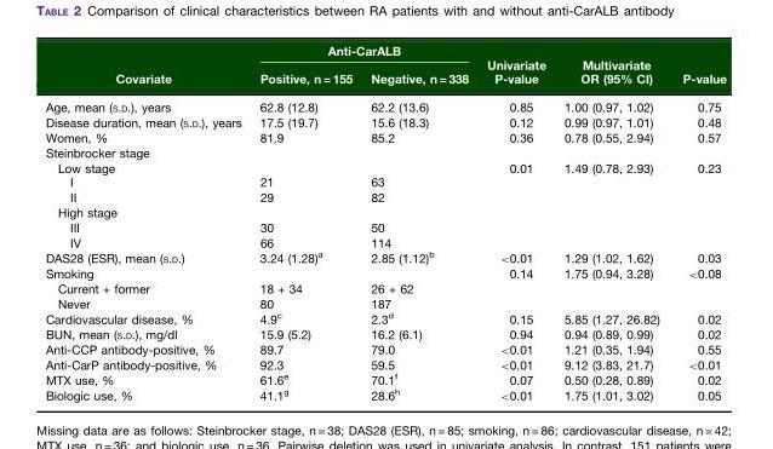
<table><thead><tr><td rowspan="2">Covariate</td><td colspan="2">Anti-CarALB</td><td rowspan="2">Univariate P-value</td><td rowspan="2">Multivariate OR (95% CI)</td><td rowspan="2">P-value</td></tr><tr><td>Positive, n = 155</td><td>Negative, n = 338</td></tr></thead><tbody><tr><td>Age, mean (S.D.), years</td><td>62.8 (12.8)</td><td>62.2 (13.6)</td><td>0.85</td><td>1.00 (0.97, 1.02)</td><td>0.75</td></tr><tr><td>Disease duration, mean (S.D.), years</td><td>17.5 (19.7)</td><td>15.6 (18.3)</td><td>0.12</td><td>0.99 (0.97, 1.01)</td><td>0.48</td></tr><tr><td>Women, %</td><td>81.9</td><td>85.2</td><td>0.36</td><td>0.78 (0.55, 2.94)</td><td>0.57</td></tr><tr><td colspan="6">Steinbrocker stage</td></tr><tr><td>Low stage</td><td></td><td></td><td>0.01</td><td>1.49 (0.78, 2.93)</td><td rowspan="3">0.23</td></tr><tr><td>I</td><td>21</td><td>63</td><td></td><td></td></tr><tr><td>II</td><td>29</td><td>82</td><td></td><td></td></tr><tr><td colspan="6">High stage</td></tr><tr><td>III</td><td>30</td><td>50</td><td></td><td></td><td></td></tr><tr><td>IV</td><td>66</td><td>114</td><td></td><td></td><td></td></tr><tr><td>DAS28 (ESR), mean (S.D.)</td><td>3.24 (1.28)<sup>a</sup></td><td>2.85 (1.12)<sup>b</sup></td><td>&lt;0.01</td><td>1.29 (1.02, 1.62)</td><td>0.03</td></tr><tr><td>Smoking</td><td></td><td></td><td>0.14</td><td>1.75 (0.94, 3.28)</td><td>&lt;0.08</td></tr><tr><td>Current + former</td><td>18 + 34</td><td>26 + 62</td><td></td><td></td><td></td></tr><tr><td>Never</td><td>80</td><td>187</td><td></td><td></td><td></td></tr><tr><td>Cardiovascular disease, %</td><td>4.9<sup>c</sup></td><td>2.3<sup>d</sup></td><td>0.15</td><td>5.85 (1.27, 26.82)</td><td>0.02</td></tr><tr><td>BUN, mean (S.D.), mg/dl</td><td>15.9 (5.2)</td><td>16.2 (6.1)</td><td>0.94</td><td>0.94 (0.89, 0.99)</td><td>0.02</td></tr><tr><td>Anti-CCP antibody-positive, %</td><td>89.7</td><td>79.0</td><td>&lt;0.01</td><td>1.21 (0.35, 1.94)</td><td>0.55</td></tr><tr><td>Anti-CarP antibody-positive, %</td><td>92.3</td><td>59.5</td><td>&lt;0.01</td><td>9.12 (3.83, 21.7)</td><td>&lt;0.01</td></tr><tr><td>MTX use, %</td><td>61.6<sup>e</sup></td><td>70.1<sup>f</sup></td><td>0.07</td><td>0.50 (0.28, 0.89)</td><td>0.02</td></tr><tr><td>Biologic use, %</td><td>41.1<sup>g</sup></td><td>28.6<sup>h</sup></td><td>&lt;0.01</td><td>1.75 (1.01, 3.02)</td><td>0.05</td></tr></tbody></table>